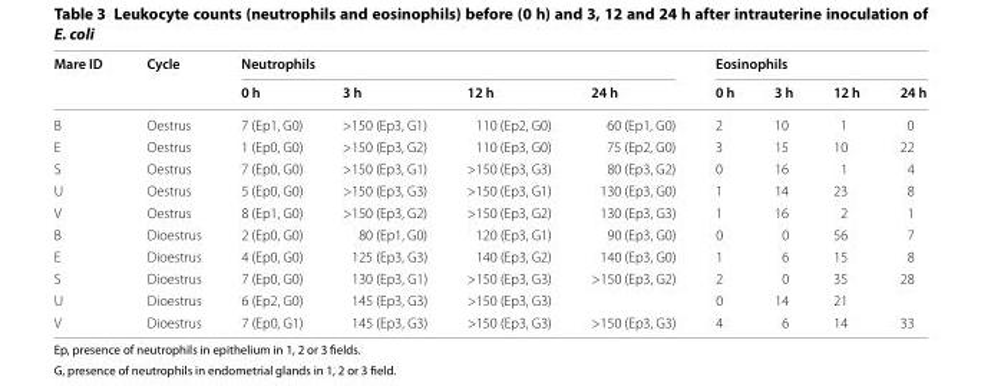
<table><thead><tr><td rowspan="2">Mare ID</td><td rowspan="2">Cycle</td><td colspan="4">Neutrophils</td><td colspan="4">Eosinophils</td></tr><tr><td>0 h</td><td>3 h</td><td>12 h</td><td>24 h</td><td>0 h</td><td>3 h</td><td>12 h</td><td>24 h</td></tr></thead><tbody><tr><td>B</td><td>Oestrus</td><td>7 (Ep1, G0)</td><td>&gt;150 (Ep3, G1)</td><td>110 (Ep2, G0)</td><td>60 (Ep1, G0)</td><td>2</td><td>10</td><td>1</td><td>0</td></tr><tr><td>E</td><td>Oestrus</td><td>1 (Ep0, G0)</td><td>&gt;150 (Ep3, G2)</td><td>110 (Ep3, G0)</td><td>75 (Ep2, G0)</td><td>3</td><td>15</td><td>10</td><td>22</td></tr><tr><td>S</td><td>Oestrus</td><td>7 (Ep0, G0)</td><td>&gt;150 (Ep3, G1)</td><td>&gt;150 (Ep3, G3)</td><td>80 (Ep3, G2)</td><td>0</td><td>16</td><td>1</td><td>4</td></tr><tr><td>U</td><td>Oestrus</td><td>5 (Ep0, G0)</td><td>&gt;150 (Ep3, G3)</td><td>&gt;150 (Ep3, G1)</td><td>130 (Ep3, G0)</td><td>1</td><td>14</td><td>23</td><td>8</td></tr><tr><td>V</td><td>Oestrus</td><td>8 (Ep1, G0)</td><td>&gt;150 (Ep3, G2)</td><td>&gt;150 (Ep3, G2)</td><td>130 (Ep3, G3)</td><td>1</td><td>16</td><td>2</td><td>1</td></tr><tr><td>B</td><td>Dioestrus</td><td>2 (Ep0, G0)</td><td>80 (Ep1, G0)</td><td>120 (Ep3, G1)</td><td>90 (Ep3, G0)</td><td>0</td><td>0</td><td>56</td><td>7</td></tr><tr><td>E</td><td>Dioestrus</td><td>4 (Ep0, G0)</td><td>125 (Ep3, G3)</td><td>140 (Ep3, G2)</td><td>140 (Ep3, G0)</td><td>1</td><td>6</td><td>15</td><td>8</td></tr><tr><td>S</td><td>Dioestrus</td><td>7 (Ep0, G0)</td><td>130 (Ep3, G1)</td><td>&gt;150 (Ep3, G3)</td><td>&gt;150 (Ep3, G2)</td><td>2</td><td>0</td><td>35</td><td>28</td></tr><tr><td>U</td><td>Dioestrus</td><td>6 (Ep2, G0)</td><td>145 (Ep3, G3)</td><td>&gt;150 (Ep3, G3)</td><td></td><td>0</td><td>14</td><td>21</td><td></td></tr><tr><td>V</td><td>Dioestrus</td><td>7 (Ep0, G1)</td><td>145 (Ep3, G3)</td><td>&gt;150 (Ep3, G3)</td><td>&gt;150 (Ep3, G3)</td><td>4</td><td>6</td><td>14</td><td>33</td></tr></tbody></table>